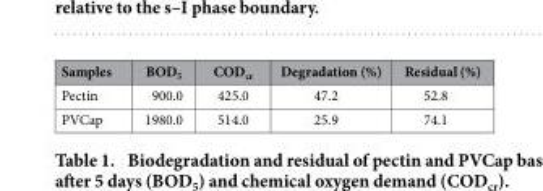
<table><thead><tr><td>Samples</td><td>BOD<sub>5</sub></td><td>COD<sub>cr</sub></td><td>Degradation (%)</td><td>Residual (%)</td></tr></thead><tbody><tr><td>Pectin</td><td>900.0</td><td>425.0</td><td>47.2</td><td>52.8</td></tr><tr><td>PVCap</td><td>1980.0</td><td>514.0</td><td>25.9</td><td>74.1</td></tr></tbody></table>